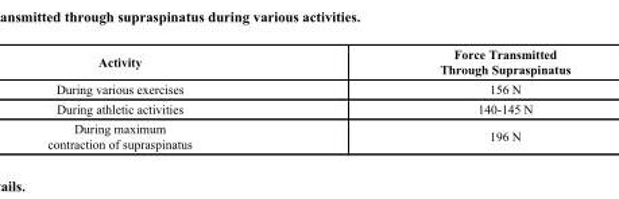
<table><thead><tr><td>Activity</td><td>Force Transmitted Through Supraspinatus</td></tr></thead><tbody><tr><td>During various exercises</td><td>156 N</td></tr><tr><td>During athletic activities</td><td>140-145 N</td></tr><tr><td>During maximum contraction of supraspinatus</td><td>196 N</td></tr></tbody></table>